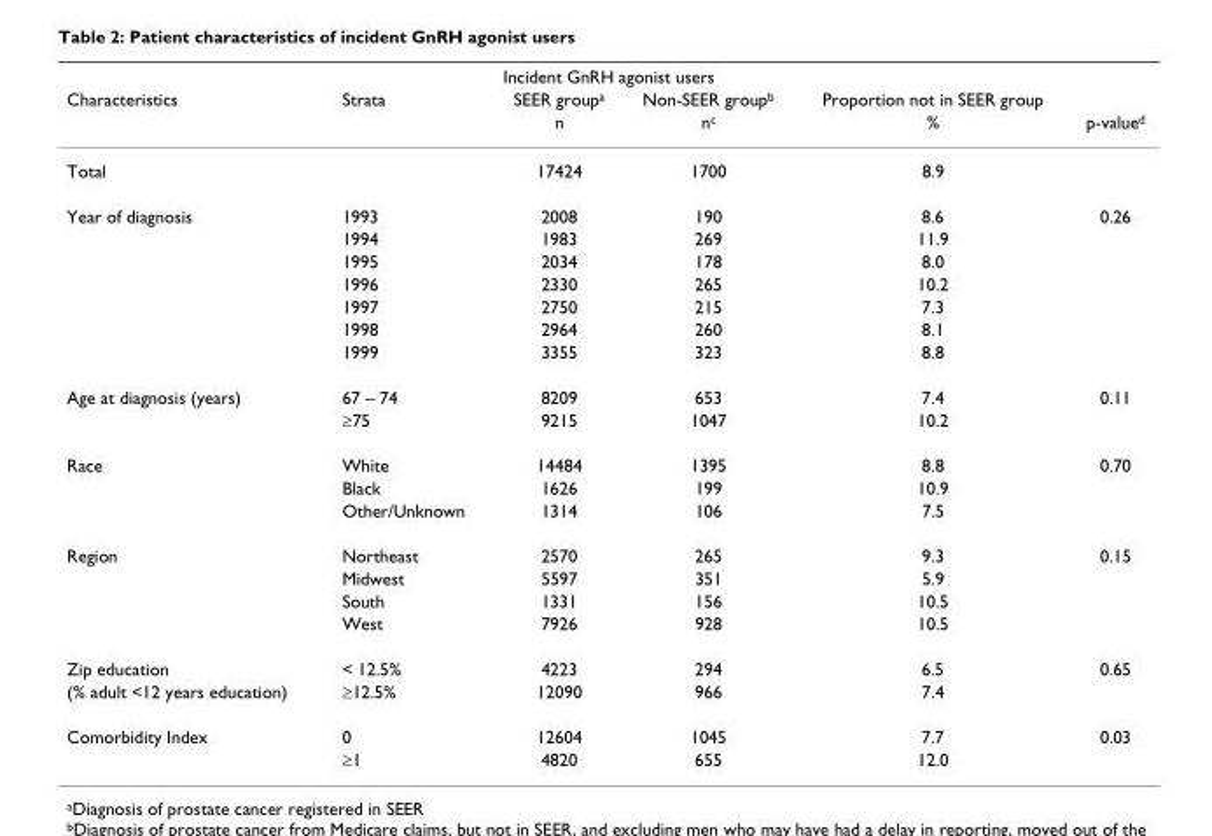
<table><thead><tr><td colspan="6">Incident GnRH agonist users</td></tr><tr><td rowspan="2">Characteristics</td><td rowspan="2">Strata</td><td rowspan="2">SEER group<sup>a</sup> n</td><td rowspan="2">Non-SEER group<sup>b</sup> n<sup>c</sup></td><td rowspan="2">Proportion not in SEER group %</td><td rowspan="2">p-value<sup>d</sup></td></tr><tr></tr></thead><tbody><tr><td>Total</td><td></td><td>17424</td><td>1700</td><td>8.9</td><td></td></tr><tr><td rowspan="7">Year of diagnosis</td><td>1993</td><td>2008</td><td>190</td><td>8.6</td><td>0.26</td></tr><tr><td>1994</td><td>1983</td><td>269</td><td>11.9</td><td></td></tr><tr><td>1995</td><td>2034</td><td>178</td><td>8.0</td><td></td></tr><tr><td>1996</td><td>2330</td><td>265</td><td>10.2</td><td></td></tr><tr><td>1997</td><td>2750</td><td>215</td><td>7.3</td><td></td></tr><tr><td>1998</td><td>2964</td><td>260</td><td>8.1</td><td></td></tr><tr><td>1999</td><td>3355</td><td>323</td><td>8.8</td><td></td></tr><tr><td rowspan="2">Age at diagnosis (years)</td><td>67 – 74</td><td>8209</td><td>653</td><td>7.4</td><td>0.11</td></tr><tr><td>≥75</td><td>9215</td><td>1047</td><td>10.2</td><td></td></tr><tr><td rowspan="3">Race</td><td>White</td><td>14484</td><td>1395</td><td>8.8</td><td>0.70</td></tr><tr><td>Black</td><td>1626</td><td>199</td><td>10.9</td><td></td></tr><tr><td>Other/Unknown</td><td>1314</td><td>106</td><td>7.5</td><td></td></tr><tr><td rowspan="4">Region</td><td>Northeast</td><td>2570</td><td>265</td><td>9.3</td><td>0.15</td></tr><tr><td>Midwest</td><td>5597</td><td>351</td><td>5.9</td><td></td></tr><tr><td>South</td><td>1331</td><td>156</td><td>10.5</td><td></td></tr><tr><td>West</td><td>7926</td><td>928</td><td>10.5</td><td></td></tr><tr><td>Zip education</td><td>&lt; 12.5%</td><td>4223</td><td>294</td><td>6.5</td><td>0.65</td></tr><tr><td>(% adult &lt;12 years education)</td><td>≥12.5%</td><td>12090</td><td>966</td><td>7.4</td><td></td></tr><tr><td rowspan="2">Comorbidity Index</td><td>0</td><td>12604</td><td>1045</td><td>7.7</td><td>0.03</td></tr><tr><td>≥1</td><td>4820</td><td>655</td><td>12.0</td><td></td></tr></tbody></table>